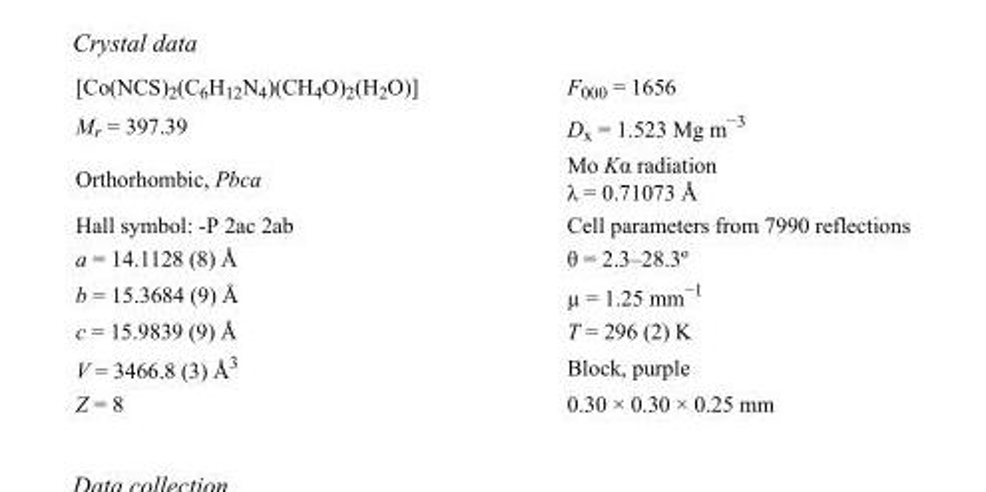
<table><tbody><tr><td>[Co(NCS)<sub>2</sub>(C<sub>6</sub>H<sub>12</sub>N<sub>4</sub>)(CH<sub>4</sub>O)<sub>2</sub>(H<sub>2</sub>O)]</td><td>F<sub>000</sub> = 1656</td></tr><tr><td>M<sub>r</sub> = 397.39</td><td>D<sub>x</sub> = 1.523 Mg m<sup>−3</sup></td></tr><tr><td>Orthorhombic, Pbca</td><td>Mo Kα radiation λ = 0.71073 Å</td></tr><tr><td>Hall symbol: -P 2ac 2ab</td><td>Cell parameters from 7990 reflections</td></tr><tr><td>a = 14.1128 (8) Å</td><td>θ = 2.3–28.3º</td></tr><tr><td>b = 15.3684 (9) Å</td><td>µ = 1.25 mm<sup>−1</sup></td></tr><tr><td>c = 15.9839 (9) Å</td><td>T = 296 (2) K</td></tr><tr><td>V = 3466.8 (3) Å<sup>3</sup></td><td>Block, purple</td></tr><tr><td>Z = 8</td><td>0.30 × 0.30 × 0.25 mm</td></tr></tbody></table>